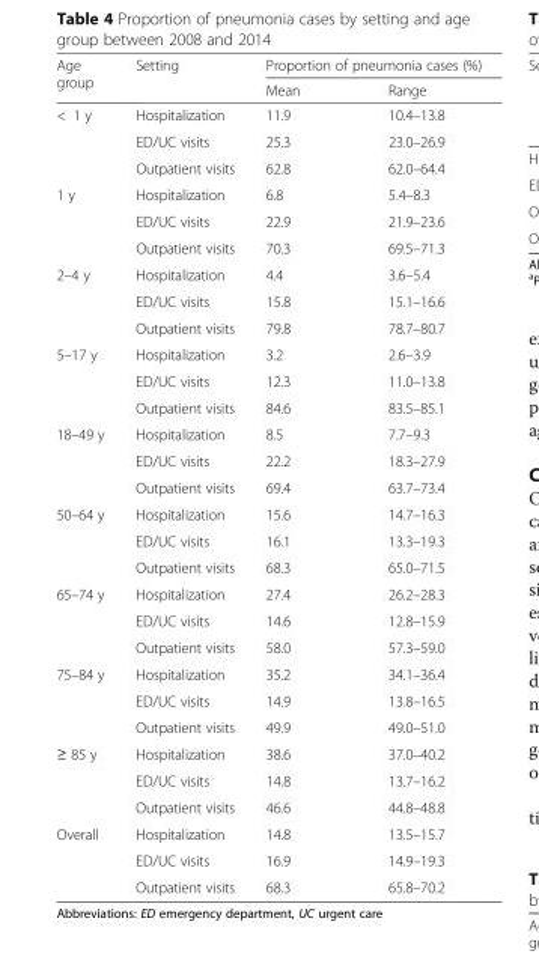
<table><thead><tr><td rowspan="2">Age group</td><td rowspan="2">Setting</td><td colspan="2">Proportion of pneumonia cases (%)</td></tr><tr><td>Mean</td><td>Range</td></tr></thead><tbody><tr><td rowspan="3">&lt; 1 y</td><td>Hospitalization</td><td>11.9</td><td>10.4–13.8</td></tr><tr><td>ED/UC visits</td><td>25.3</td><td>23.0–26.9</td></tr><tr><td>Outpatient visits</td><td>62.8</td><td>62.0–64.4</td></tr><tr><td rowspan="3">1 y</td><td>Hospitalization</td><td>6.8</td><td>5.4–8.3</td></tr><tr><td>ED/UC visits</td><td>22.9</td><td>21.9–23.6</td></tr><tr><td>Outpatient visits</td><td>70.3</td><td>69.5–71.3</td></tr><tr><td rowspan="3">2–4 y</td><td>Hospitalization</td><td>4.4</td><td>3.6–5.4</td></tr><tr><td>ED/UC visits</td><td>15.8</td><td>15.1–16.6</td></tr><tr><td>Outpatient visits</td><td>79.8</td><td>78.7–80.7</td></tr><tr><td rowspan="3">5–17 y</td><td>Hospitalization</td><td>3.2</td><td>2.6–3.9</td></tr><tr><td>ED/UC visits</td><td>12.3</td><td>11.0–13.8</td></tr><tr><td>Outpatient visits</td><td>84.6</td><td>83.5–85.1</td></tr><tr><td rowspan="3">18–49 y</td><td>Hospitalization</td><td>8.5</td><td>7.7–9.3</td></tr><tr><td>ED/UC visits</td><td>22.2</td><td>18.3–27.9</td></tr><tr><td>Outpatient visits</td><td>69.4</td><td>63.7–73.4</td></tr><tr><td rowspan="3">50–64 y</td><td>Hospitalization</td><td>15.6</td><td>14.7–16.3</td></tr><tr><td>ED/UC visits</td><td>16.1</td><td>13.3–19.3</td></tr><tr><td>Outpatient visits</td><td>68.3</td><td>65.0–71.5</td></tr><tr><td rowspan="3">65–74 y</td><td>Hospitalization</td><td>27.4</td><td>26.2–28.3</td></tr><tr><td>ED/UC visits</td><td>14.6</td><td>12.8–15.9</td></tr><tr><td>Outpatient visits</td><td>58.0</td><td>57.3–59.0</td></tr><tr><td rowspan="3">75–84 y</td><td>Hospitalization</td><td>35.2</td><td>34.1–36.4</td></tr><tr><td>ED/UC visits</td><td>14.9</td><td>13.8–16.5</td></tr><tr><td>Outpatient visits</td><td>49.9</td><td>49.0–51.0</td></tr><tr><td rowspan="3">≥ 85 y</td><td>Hospitalization</td><td>38.6</td><td>37.0–40.2</td></tr><tr><td>ED/UC visits</td><td>14.8</td><td>13.7–16.2</td></tr><tr><td>Outpatient visits</td><td>46.6</td><td>44.8–48.8</td></tr><tr><td rowspan="3">Overall</td><td>Hospitalization</td><td>14.8</td><td>13.5–15.7</td></tr><tr><td>ED/UC visits</td><td>16.9</td><td>14.9–19.3</td></tr><tr><td>Outpatient visits</td><td>68.3</td><td>65.8–70.2</td></tr></tbody></table>